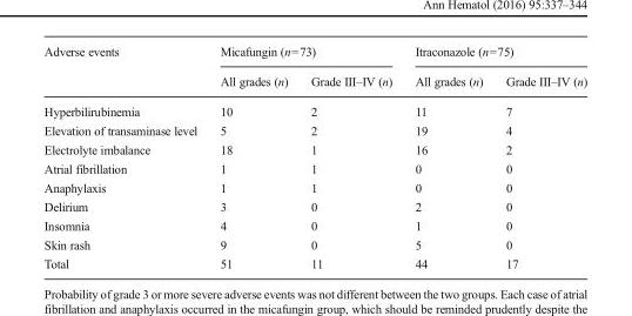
<table><thead><tr><td rowspan="2">Adverse events</td><td colspan="2">Micafungin (n=73)</td><td colspan="2">Itraconazole (n=75)</td></tr><tr><td>All grades (n)</td><td>Grade III–IV (n)</td><td>All grades (n)</td><td>Grade III–IV (n)</td></tr></thead><tbody><tr><td>Hyperbilirubinemia Elevation of transaminase level Electrolyte imbalance Atrial fibrillation Anaphylaxis Delirium Insomnia Skin rash</td><td>10 5 18 1 1 3 4 9</td><td>2 2 1 1 1 0 0 0</td><td>11 19 16 0 0 2 1 5</td><td>7 4 2 0 0 0 0 0</td></tr><tr><td>Total</td><td>51</td><td>11</td><td>44</td><td>17</td></tr></tbody></table>